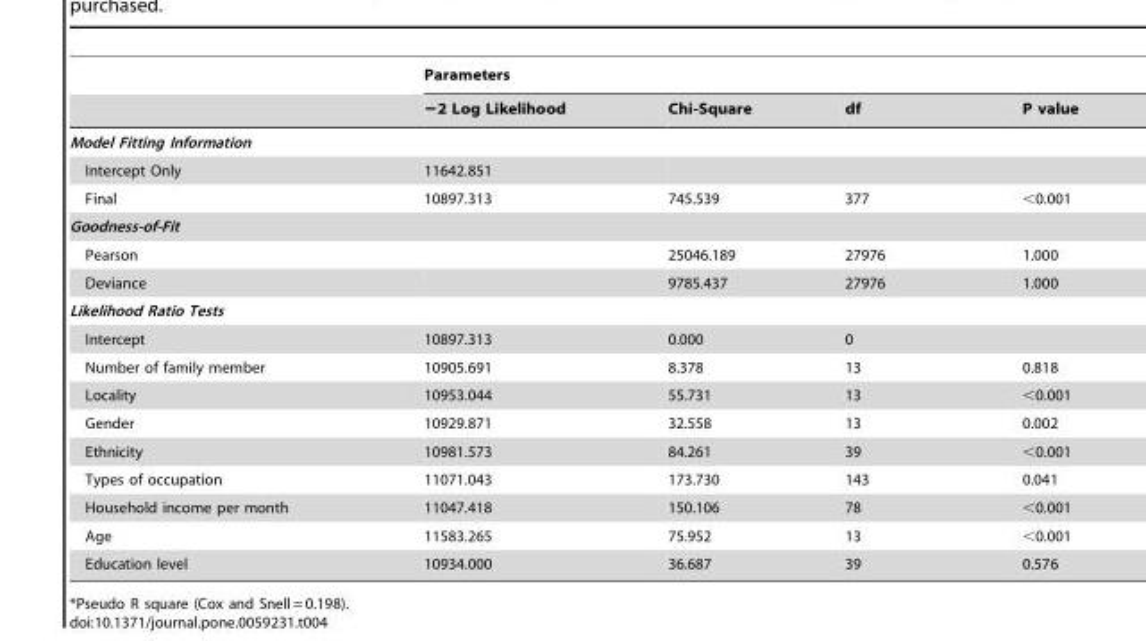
<table><thead><tr><td rowspan="2"></td><td colspan="4">Parameters</td></tr><tr><td>−2 Log Likelihood</td><td>Chi-Square</td><td>df</td><td>P value</td></tr></thead><tbody><tr><td colspan="5">Model Fitting Information</td></tr><tr><td>Intercept Only</td><td>11642.851</td><td></td><td></td><td></td></tr><tr><td>Final</td><td>10897.313</td><td>745.539</td><td>377</td><td>&lt;0.001</td></tr><tr><td colspan="5">Goodness-of-Fit</td></tr><tr><td>Pearson</td><td></td><td>25046.189</td><td>27976</td><td>1.000</td></tr><tr><td>Deviance</td><td></td><td>9785.437</td><td>27976</td><td>1.000</td></tr><tr><td colspan="5">Likelihood Ratio Tests</td></tr><tr><td>Intercept</td><td>10897.313</td><td>0.000</td><td>0</td><td></td></tr><tr><td>Number of family member</td><td>10905.691</td><td>8.378</td><td>13</td><td>0.818</td></tr><tr><td>Locality</td><td>10953.044</td><td>55.731</td><td>13</td><td>&lt;0.001</td></tr><tr><td>Gender</td><td>10929.871</td><td>32.558</td><td>13</td><td>0.002</td></tr><tr><td>Ethnicity</td><td>10981.573</td><td>84.261</td><td>39</td><td>&lt;0.001</td></tr><tr><td>Types of occupation</td><td>11071.043</td><td>173.730</td><td>143</td><td>0.041</td></tr><tr><td>Household income per month</td><td>11047.418</td><td>150.106</td><td>78</td><td>&lt;0.001</td></tr><tr><td>Age</td><td>11583.265</td><td>75.952</td><td>13</td><td>&lt;0.001</td></tr><tr><td>Education level</td><td>10934.000</td><td>36.687</td><td>39</td><td>0.576</td></tr></tbody></table>